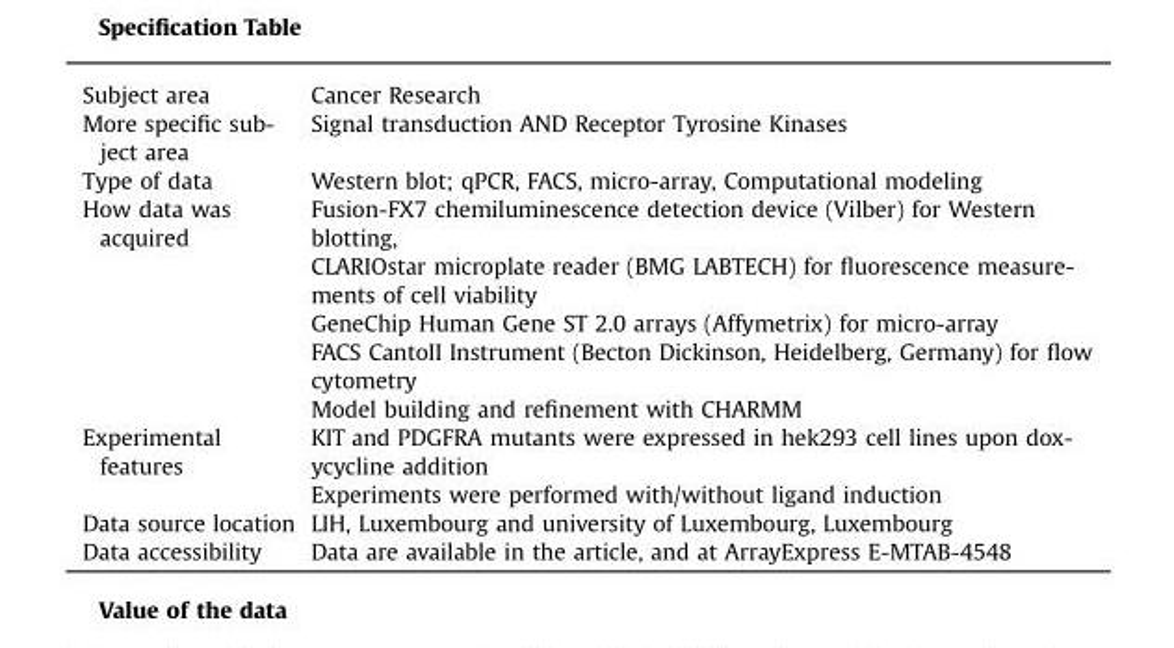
<table><tbody><tr><td>Subject area</td><td>Cancer Research</td></tr><tr><td>More specific sub- ject area</td><td>Signal transduction AND Receptor Tyrosine Kinases</td></tr><tr><td>Type of data</td><td>Western blot; qPCR, FACS, micro-array, Computational modeling</td></tr><tr><td rowspan="5">How data was acquired</td><td>Fusion-FX7 chemiluminescence detection device (Vilber) for Western blotting,</td></tr><tr><td>CLARIOstar microplate reader (BMG LABTECH) for fluorescence measure- ments of cell viability</td></tr><tr><td>GeneChip Human Gene ST 2.0 arrays (Affymetrix) for micro-array</td></tr><tr><td>FACS CantoII Instrument (Becton Dickinson, Heidelberg, Germany) for flow cytometry</td></tr><tr><td>Model building and refinement with CHARMM</td></tr><tr><td rowspan="2">Experimental features</td><td>KIT and PDGFRA mutants were expressed in hek293 cell lines upon dox- ycycline addition</td></tr><tr><td>Experiments were performed with/without ligand induction</td></tr><tr><td>Data source location</td><td>LIH, Luxembourg and university of Luxembourg, Luxembourg</td></tr><tr><td>Data accessibility</td><td>Data are available in the article, and at ArrayExpress E-MTAB-4548</td></tr></tbody></table>